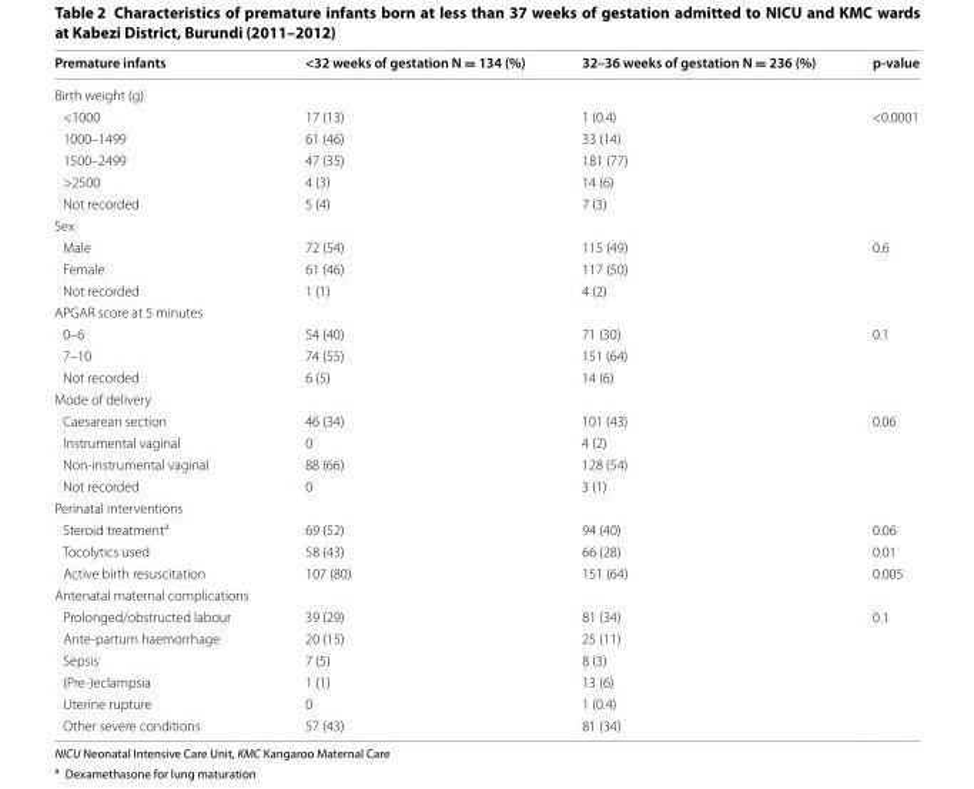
<table><thead><tr><td>Premature infants</td><td>&lt;32 weeks of gestation N = 134 (%)</td><td>32–36 weeks of gestation N = 236 (%)</td><td>p-value</td></tr></thead><tbody><tr><td colspan="4">Birth weight (g)</td></tr><tr><td>&lt;1000</td><td>17 (13)</td><td>1 (0.4)</td><td rowspan="5">&lt;0.0001</td></tr><tr><td>1000–1499</td><td>61 (46)</td><td>33 (14)</td></tr><tr><td>1500–2499</td><td>47 (35)</td><td>181 (77)</td></tr><tr><td>&gt;2500</td><td>4 (3)</td><td>14 (6)</td></tr><tr><td>Not recorded</td><td>5 (4)</td><td>7 (3)</td></tr><tr><td colspan="4">Sex</td></tr><tr><td>Male</td><td>72 (54)</td><td>115 (49)</td><td rowspan="3">0.6</td></tr><tr><td>Female</td><td>61 (46)</td><td>117 (50)</td></tr><tr><td>Not recorded</td><td>1 (1)</td><td>4 (2)</td></tr><tr><td colspan="4">APGAR score at 5 minutes</td></tr><tr><td>0–6</td><td>54 (40)</td><td>71 (30)</td><td rowspan="3">0.1</td></tr><tr><td>7–10</td><td>74 (55)</td><td>151 (64)</td></tr><tr><td>Not recorded</td><td>6 (5)</td><td>14 (6)</td></tr><tr><td colspan="4">Mode of delivery</td></tr><tr><td>Caesarean section</td><td>46 (34)</td><td>101 (43)</td><td rowspan="4">0.06</td></tr><tr><td>Instrumental vaginal</td><td>0</td><td>4 (2)</td></tr><tr><td>Non-instrumental vaginal</td><td>88 (66)</td><td>128 (54)</td></tr><tr><td>Not recorded</td><td>0</td><td>3 (1)</td></tr><tr><td colspan="4">Perinatal interventions</td></tr><tr><td>Steroid treatment<sup>a</sup></td><td>69 (52)</td><td>94 (40)</td><td>0.06</td></tr><tr><td>Tocolytics used</td><td>58 (43)</td><td>66 (28)</td><td>0.01</td></tr><tr><td>Active birth resuscitation</td><td>107 (80)</td><td>151 (64)</td><td>0.005</td></tr><tr><td colspan="4">Antenatal maternal complications</td></tr><tr><td>Prolonged/obstructed labour</td><td>39 (29)</td><td>81 (34)</td><td rowspan="6">0.1</td></tr><tr><td>Ante-partum haemorrhage</td><td>20 (15)</td><td>25 (11)</td></tr><tr><td>Sepsis</td><td>7 (5)</td><td>8 (3)</td></tr><tr><td>(Pre-)eclampsia</td><td>1 (1)</td><td>13 (6)</td></tr><tr><td>Uterine rupture</td><td>0</td><td>1 (0.4)</td></tr><tr><td>Other severe conditions</td><td>57 (43)</td><td>81 (34)</td></tr></tbody></table>